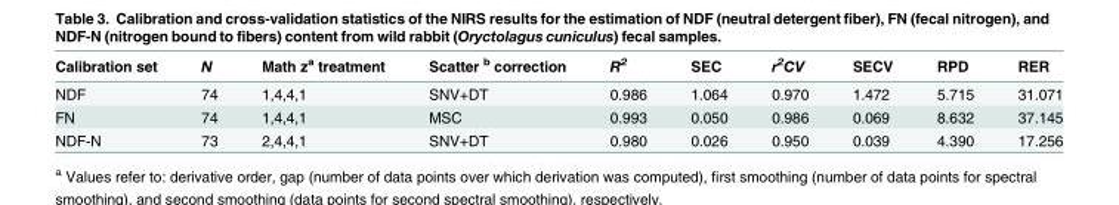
<table><thead><tr><td>Calibration set</td><td>N</td><td>Math z<sup>a</sup> treatment</td><td>Scatter <sup>b</sup> correction</td><td>R<sup>2</sup></td><td>SEC</td><td>r<sup>2</sup>CV</td><td>SECV</td><td>RPD</td><td>RER</td></tr></thead><tbody><tr><td>NDF</td><td>74</td><td>1,4,4,1</td><td>SNV+DT</td><td>0.986</td><td>1.064</td><td>0.970</td><td>1.472</td><td>5.715</td><td>31.071</td></tr><tr><td>FN</td><td>74</td><td>1,4,4,1</td><td>MSC</td><td>0.993</td><td>0.050</td><td>0.986</td><td>0.069</td><td>8.632</td><td>37.145</td></tr><tr><td>NDF-N</td><td>73</td><td>2,4,4,1</td><td>SNV+DT</td><td>0.980</td><td>0.026</td><td>0.950</td><td>0.039</td><td>4.390</td><td>17.256</td></tr></tbody></table>